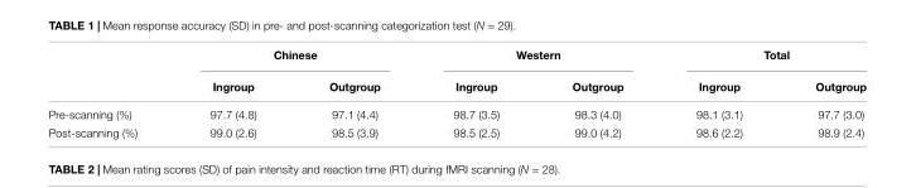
<table><thead><tr><td rowspan="2"></td><td colspan="2">Chinese</td><td colspan="2">Western</td><td colspan="2">Total</td></tr><tr><td>Ingroup</td><td>Outgroup</td><td>Ingroup</td><td>Outgroup</td><td>Ingroup</td><td>Outgroup</td></tr></thead><tbody><tr><td>Pre-scanning (%)</td><td>97.7 (4.8)</td><td>97.1 (4.4)</td><td>98.7 (3.5)</td><td>98.3 (4.0)</td><td>98.1 (3.1)</td><td>97.7 (3.0)</td></tr><tr><td>Post-scanning (%)</td><td>99.0 (2.6)</td><td>98.5 (3.9)</td><td>98.5 (2.5)</td><td>99.0 (4.2)</td><td>98.6 (2.2)</td><td>98.9 (2.4)</td></tr></tbody></table>